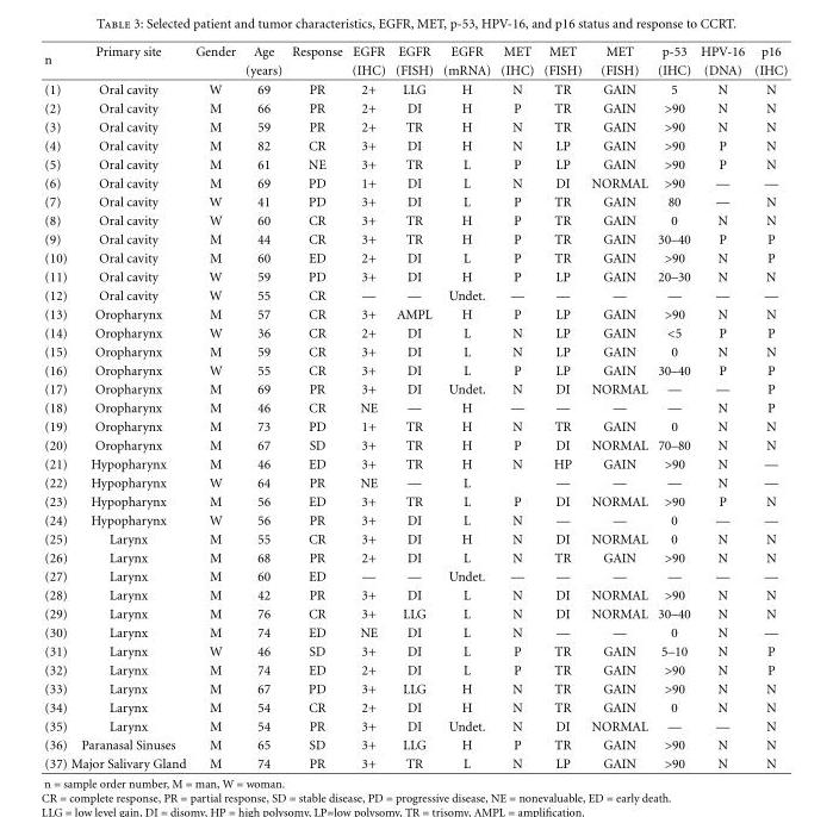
<table><thead><tr><td rowspan="2">n</td><td rowspan="2">Primary site</td><td rowspan="2">Gender</td><td rowspan="2">Age (years)</td><td rowspan="2">Response</td><td rowspan="2">EGFR (IHC)</td><td rowspan="2">EGFR (FISH)</td><td rowspan="2">EGFR (mRNA)</td><td rowspan="2">MET (IHC)</td><td rowspan="2">MET (FISH)</td><td rowspan="2">MET (FISH)</td><td rowspan="2">p-53 (IHC)</td><td rowspan="2">HPV-16 (DNA)</td><td rowspan="2">p16 (IHC)</td></tr><tr></tr></thead><tbody><tr><td>(1)</td><td>Oral cavity</td><td>W</td><td>69</td><td>PR</td><td>2+</td><td>LLG</td><td>H</td><td>N</td><td>TR</td><td>GAIN</td><td>5</td><td>N</td><td>N</td></tr><tr><td>(2)</td><td>Oral cavity</td><td>M</td><td>66</td><td>PR</td><td>2+</td><td>DI</td><td>H</td><td>P</td><td>TR</td><td>GAIN</td><td>&gt;90</td><td>N</td><td>N</td></tr><tr><td>(3)</td><td>Oral cavity</td><td>M</td><td>59</td><td>PR</td><td>2+</td><td>TR</td><td>H</td><td>N</td><td>TR</td><td>GAIN</td><td>&gt;90</td><td>N</td><td>N</td></tr><tr><td>(4)</td><td>Oral cavity</td><td>M</td><td>82</td><td>CR</td><td>3+</td><td>DI</td><td>H</td><td>N</td><td>LP</td><td>GAIN</td><td>&gt;90</td><td>P</td><td>N</td></tr><tr><td>(5)</td><td>Oral cavity</td><td>M</td><td>61</td><td>NE</td><td>3+</td><td>TR</td><td>L</td><td>P</td><td>LP</td><td>GAIN</td><td>&gt;90</td><td>P</td><td>N</td></tr><tr><td>(6)</td><td>Oral cavity</td><td>M</td><td>69</td><td>PD</td><td>1+</td><td>DI</td><td>L</td><td>N</td><td>DI</td><td>NORMAL</td><td>&gt;90</td><td>—</td><td>—</td></tr><tr><td>(7)</td><td>Oral cavity</td><td>W</td><td>41</td><td>PD</td><td>3+</td><td>DI</td><td>L</td><td>P</td><td>TR</td><td>GAIN</td><td>80</td><td>—</td><td>N</td></tr><tr><td>(8)</td><td>Oral cavity</td><td>W</td><td>60</td><td>CR</td><td>3+</td><td>TR</td><td>H</td><td>P</td><td>TR</td><td>GAIN</td><td>0</td><td>N</td><td>N</td></tr><tr><td>(9)</td><td>Oral cavity</td><td>M</td><td>44</td><td>CR</td><td>3+</td><td>TR</td><td>H</td><td>P</td><td>TR</td><td>GAIN</td><td>30–40</td><td>P</td><td>P</td></tr><tr><td>(10)</td><td>Oral cavity</td><td>M</td><td>60</td><td>ED</td><td>2+</td><td>DI</td><td>L</td><td>P</td><td>TR</td><td>GAIN</td><td>&gt;90</td><td>N</td><td>P</td></tr><tr><td>(11)</td><td>Oral cavity</td><td>W</td><td>59</td><td>PD</td><td>3+</td><td>DI</td><td>H</td><td>P</td><td>LP</td><td>GAIN</td><td>20–30</td><td>N</td><td>N</td></tr><tr><td>(12)</td><td>Oral cavity</td><td>W</td><td>55</td><td>CR</td><td>—</td><td>—</td><td>Undet.</td><td>—</td><td>—</td><td>—</td><td>—</td><td>—</td><td>—</td></tr><tr><td>(13)</td><td>Oropharynx</td><td>M</td><td>57</td><td>CR</td><td>3+</td><td>AMPL</td><td>H</td><td>P</td><td>LP</td><td>GAIN</td><td>&gt;90</td><td>N</td><td>N</td></tr><tr><td>(14)</td><td>Oropharynx</td><td>W</td><td>36</td><td>CR</td><td>2+</td><td>DI</td><td>L</td><td>N</td><td>LP</td><td>GAIN</td><td>&lt;5</td><td>P</td><td>P</td></tr><tr><td>(15)</td><td>Oropharynx</td><td>M</td><td>59</td><td>CR</td><td>3+</td><td>DI</td><td>L</td><td>N</td><td>LP</td><td>GAIN</td><td>0</td><td>N</td><td>N</td></tr><tr><td>(16)</td><td>Oropharynx</td><td>W</td><td>55</td><td>CR</td><td>3+</td><td>DI</td><td>L</td><td>P</td><td>LP</td><td>GAIN</td><td>30–40</td><td>P</td><td>P</td></tr><tr><td>(17)</td><td>Oropharynx</td><td>M</td><td>69</td><td>PR</td><td>3+</td><td>DI</td><td>Undet.</td><td>N</td><td>DI</td><td>NORMAL</td><td>—</td><td>—</td><td>P</td></tr><tr><td>(18)</td><td>Oropharynx</td><td>M</td><td>46</td><td>CR</td><td>NE</td><td>—</td><td>H</td><td>—</td><td>—</td><td>—</td><td>—</td><td>N</td><td>P</td></tr><tr><td>(19)</td><td>Oropharynx</td><td>M</td><td>73</td><td>PD</td><td>1+</td><td>TR</td><td>H</td><td>N</td><td>TR</td><td>GAIN</td><td>0</td><td>N</td><td>N</td></tr><tr><td>(20)</td><td>Oropharynx</td><td>M</td><td>67</td><td>SD</td><td>3+</td><td>TR</td><td>H</td><td>P</td><td>DI</td><td>NORMAL</td><td>70–80</td><td>N</td><td>N</td></tr><tr><td>(21)</td><td>Hypopharynx</td><td>M</td><td>46</td><td>ED</td><td>3+</td><td>TR</td><td>H</td><td>N</td><td>HP</td><td>GAIN</td><td>&gt;90</td><td>N</td><td>—</td></tr><tr><td>(22)</td><td>Hypopharynx</td><td>W</td><td>64</td><td>PR</td><td>NE</td><td>—</td><td>L</td><td></td><td>—</td><td>—</td><td>—</td><td>N</td><td>—</td></tr><tr><td>(23)</td><td>Hypopharynx</td><td>M</td><td>56</td><td>ED</td><td>3+</td><td>TR</td><td>L</td><td>P</td><td>DI</td><td>NORMAL</td><td>&gt;90</td><td>P</td><td>N</td></tr><tr><td>(24)</td><td>Hypopharynx</td><td>W</td><td>56</td><td>PR</td><td>3+</td><td>DI</td><td>L</td><td>N</td><td>—</td><td>—</td><td>0</td><td>—</td><td>—</td></tr><tr><td>(25)</td><td>Larynx</td><td>M</td><td>55</td><td>CR</td><td>3+</td><td>DI</td><td>H</td><td>N</td><td>DI</td><td>NORMAL</td><td>0</td><td>N</td><td>N</td></tr><tr><td>(26)</td><td>Larynx</td><td>M</td><td>68</td><td>PR</td><td>2+</td><td>DI</td><td>L</td><td>N</td><td>TR</td><td>GAIN</td><td>&gt;90</td><td>N</td><td>N</td></tr><tr><td>(27)</td><td>Larynx</td><td>M</td><td>60</td><td>ED</td><td>—</td><td>—</td><td>Undet.</td><td>—</td><td>—</td><td>—</td><td>—</td><td>—</td><td>—</td></tr><tr><td>(28)</td><td>Larynx</td><td>M</td><td>42</td><td>PR</td><td>3+</td><td>DI</td><td>L</td><td>N</td><td>DI</td><td>NORMAL</td><td>&gt;90</td><td>N</td><td>N</td></tr><tr><td>(29)</td><td>Larynx</td><td>M</td><td>76</td><td>CR</td><td>3+</td><td>LLG</td><td>L</td><td>N</td><td>DI</td><td>NORMAL</td><td>30–40</td><td>N</td><td>N</td></tr><tr><td>(30)</td><td>Larynx</td><td>M</td><td>74</td><td>ED</td><td>NE</td><td>DI</td><td>L</td><td>N</td><td>—</td><td>—</td><td>0</td><td>N</td><td>—</td></tr><tr><td>(31)</td><td>Larynx</td><td>W</td><td>46</td><td>SD</td><td>3+</td><td>DI</td><td>L</td><td>P</td><td>TR</td><td>GAIN</td><td>5–10</td><td>N</td><td>P</td></tr><tr><td>(32)</td><td>Larynx</td><td>M</td><td>74</td><td>ED</td><td>2+</td><td>DI</td><td>L</td><td>P</td><td>TR</td><td>GAIN</td><td>&gt;90</td><td>N</td><td>P</td></tr><tr><td>(33)</td><td>Larynx</td><td>M</td><td>67</td><td>PD</td><td>3+</td><td>LLG</td><td>H</td><td>N</td><td>TR</td><td>GAIN</td><td>&gt;90</td><td>N</td><td>N</td></tr><tr><td>(34)</td><td>Larynx</td><td>M</td><td>54</td><td>CR</td><td>2+</td><td>DI</td><td>H</td><td>N</td><td>TR</td><td>GAIN</td><td>0</td><td>N</td><td>N</td></tr><tr><td>(35)</td><td>Larynx</td><td>M</td><td>54</td><td>PR</td><td>3+</td><td>DI</td><td>Undet.</td><td>N</td><td>DI</td><td>NORMAL</td><td>—</td><td>—</td><td>N</td></tr><tr><td>(36)</td><td>Paranasal Sinuses</td><td>M</td><td>65</td><td>SD</td><td>3+</td><td>LLG</td><td>H</td><td>P</td><td>TR</td><td>GAIN</td><td>&gt;90</td><td>N</td><td>N</td></tr><tr><td>(37)</td><td>Major Salivary Gland</td><td>M</td><td>74</td><td>PR</td><td>3+</td><td>TR</td><td>L</td><td>N</td><td>LP</td><td>GAIN</td><td>&gt;90</td><td>N</td><td>N</td></tr></tbody></table>